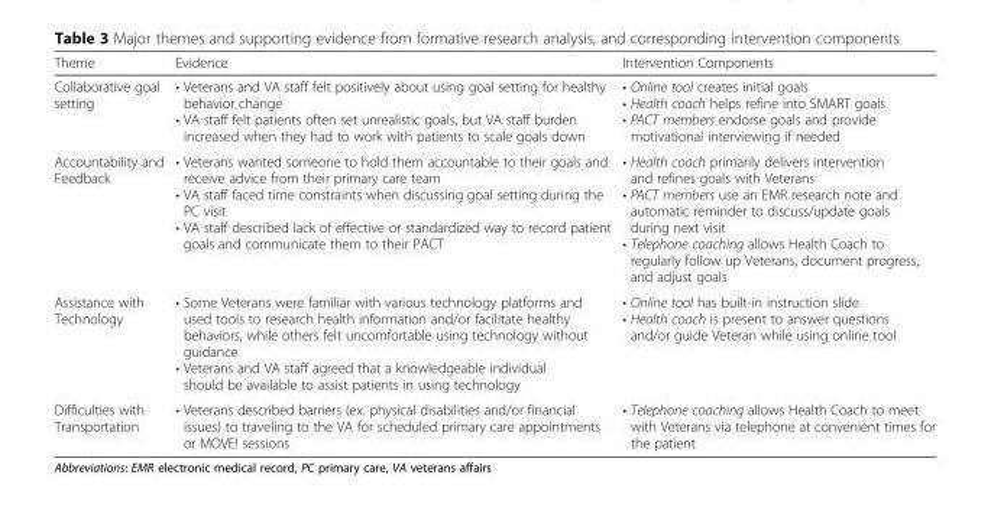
<table><thead><tr><td>Theme</td><td>Evidence</td><td>Intervention Components</td></tr></thead><tbody><tr><td>Collaborative goal setting</td><td>• Veterans and VA staff felt positively about using goal setting for healthy behavior change • VA staff felt patients often set unrealistic goals, but VA staff burden increased when they had to work with patients to scale goals down</td><td>• Online tool creates initial goals • Health coach helps refine into SMART goals • PACT members endorse goals and provide motivational interviewing if needed</td></tr><tr><td>Accountability and Feedback</td><td>• Veterans wanted someone to hold them accountable to their goals and receive advice from their primary care team • VA staff faced time constraints when discussing goal setting during the PC visit • VA staff described lack of effective or standardized way to record patient goals and communicate them to their PACT</td><td>• Health coach primarily delivers intervention and refines goals with Veterans • PACT members use an EMR research note and automatic reminder to discuss/update goals during next visit • Telephone coaching allows Health Coach to regularly follow up Veterans, document progress, and adjust goals</td></tr><tr><td>Assistance with Technology</td><td>• Some Veterans were familiar with various technology platforms and used tools to research health information and/or facilitate healthy behaviors, while others felt uncomfortable using technology without guidance • Veterans and VA staff agreed that a knowledgeable individual should be available to assist patients in using technology</td><td>• Online tool has built-in instruction slide • Health coach is present to answer questions and/or guide Veteran while using online tool</td></tr><tr><td>Difficulties with Transportation</td><td>• Veterans described barriers (ex. physical disabilities and/or financial issues) to traveling to the VA for scheduled primary care appointments or MOVE! sessions</td><td>• Telephone coaching allows Health Coach to meet with Veterans via telephone at convenient times for the patient</td></tr></tbody></table>